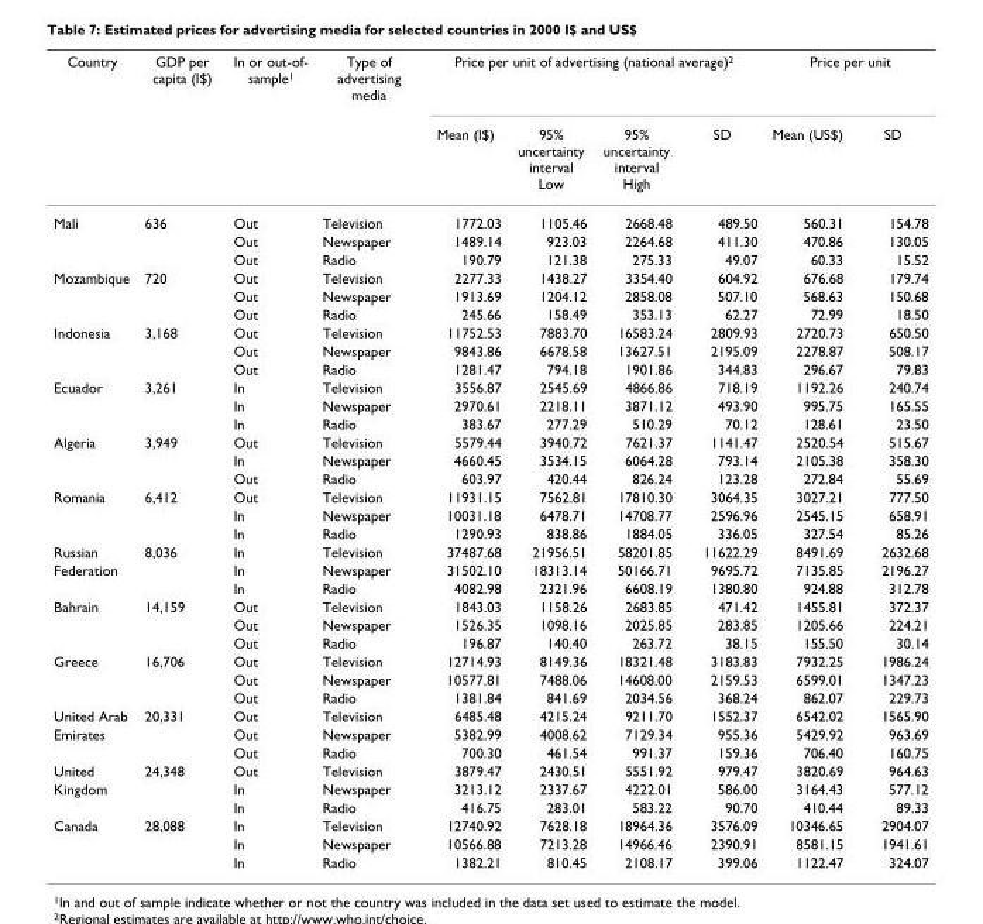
<table><thead><tr><td rowspan="2">Country</td><td rowspan="2">GDP per capita (I$)</td><td rowspan="2">In or out-of- sample<sup>1</sup></td><td rowspan="2">Type of advertising media</td><td colspan="4">Price per unit of advertising (national average)<sup>2</sup></td><td colspan="2">Price per unit</td></tr><tr><td>Mean (I$)</td><td>95% uncertainty interval Low</td><td>95% uncertainty interval High</td><td>SD</td><td>Mean (US$)</td><td>SD</td></tr></thead><tbody><tr><td rowspan="3">Mali</td><td>636</td><td>Out</td><td>Television</td><td>1772.03</td><td>1105.46</td><td>2668.48</td><td>489.50</td><td>560.31</td><td>154.78</td></tr><tr><td></td><td>Out</td><td>Newspaper</td><td>1489.14</td><td>923.03</td><td>2264.68</td><td>411.30</td><td>470.86</td><td>130.05</td></tr><tr><td></td><td>Out</td><td>Radio</td><td>190.79</td><td>121.38</td><td>275.33</td><td>49.07</td><td>60.33</td><td>15.52</td></tr><tr><td rowspan="3">Mozambique</td><td>720</td><td>Out</td><td>Television</td><td>2277.33</td><td>1438.27</td><td>3354.40</td><td>604.92</td><td>676.68</td><td>179.74</td></tr><tr><td></td><td>Out</td><td>Newspaper</td><td>1913.69</td><td>1204.12</td><td>2858.08</td><td>507.10</td><td>568.63</td><td>150.68</td></tr><tr><td></td><td>Out</td><td>Radio</td><td>245.66</td><td>158.49</td><td>353.13</td><td>62.27</td><td>72.99</td><td>18.50</td></tr><tr><td rowspan="3">Indonesia</td><td>3,168</td><td>Out</td><td>Television</td><td>11752.53</td><td>7883.70</td><td>16583.24</td><td>2809.93</td><td>2720.73</td><td>650.50</td></tr><tr><td></td><td>Out</td><td>Newspaper</td><td>9843.86</td><td>6678.58</td><td>13627.51</td><td>2195.09</td><td>2278.87</td><td>508.17</td></tr><tr><td></td><td>Out</td><td>Radio</td><td>1281.47</td><td>794.18</td><td>1901.86</td><td>344.83</td><td>296.67</td><td>79.83</td></tr><tr><td rowspan="3">Ecuador</td><td>3,261</td><td>In</td><td>Television</td><td>3556.87</td><td>2545.69</td><td>4866.86</td><td>718.19</td><td>1192.26</td><td>240.74</td></tr><tr><td></td><td>In</td><td>Newspaper</td><td>2970.61</td><td>2218.11</td><td>3871.12</td><td>493.90</td><td>995.75</td><td>165.55</td></tr><tr><td></td><td>In</td><td>Radio</td><td>383.67</td><td>277.29</td><td>510.29</td><td>70.12</td><td>128.61</td><td>23.50</td></tr><tr><td rowspan="3">Algeria</td><td>3,949</td><td>Out</td><td>Television</td><td>5579.44</td><td>3940.72</td><td>7621.37</td><td>1141.47</td><td>2520.54</td><td>515.67</td></tr><tr><td></td><td>In</td><td>Newspaper</td><td>4660.45</td><td>3534.15</td><td>6064.28</td><td>793.14</td><td>2105.38</td><td>358.30</td></tr><tr><td></td><td>Out</td><td>Radio</td><td>603.97</td><td>420.44</td><td>826.24</td><td>123.28</td><td>272.84</td><td>55.69</td></tr><tr><td rowspan="3">Romania</td><td>6,412</td><td>Out</td><td>Television</td><td>11931.15</td><td>7562.81</td><td>17810.30</td><td>3064.35</td><td>3027.21</td><td>777.50</td></tr><tr><td></td><td>In</td><td>Newspaper</td><td>10031.18</td><td>6478.71</td><td>14708.77</td><td>2596.96</td><td>2545.15</td><td>658.91</td></tr><tr><td></td><td>In</td><td>Radio</td><td>1290.93</td><td>838.86</td><td>1884.05</td><td>336.05</td><td>327.54</td><td>85.26</td></tr><tr><td>Russian</td><td>8,036</td><td>In</td><td>Television</td><td>37487.68</td><td>21956.51</td><td>58201.85</td><td>11622.29</td><td>8491.69</td><td>2632.68</td></tr><tr><td rowspan="2">Federation</td><td></td><td>In</td><td>Newspaper</td><td>31502.10</td><td>18313.14</td><td>50166.71</td><td>9695.72</td><td>7135.85</td><td>2196.27</td></tr><tr><td></td><td>In</td><td>Radio</td><td>4082.98</td><td>2321.96</td><td>6608.19</td><td>1380.80</td><td>924.88</td><td>312.78</td></tr><tr><td rowspan="3">Bahrain</td><td>14,159</td><td>Out</td><td>Television</td><td>1843.03</td><td>1158.26</td><td>2683.85</td><td>471.42</td><td>1455.81</td><td>372.37</td></tr><tr><td></td><td>Out</td><td>Newspaper</td><td>1526.35</td><td>1098.16</td><td>2025.85</td><td>283.85</td><td>1205.66</td><td>224.21</td></tr><tr><td></td><td>Out</td><td>Radio</td><td>196.87</td><td>140.40</td><td>263.72</td><td>38.15</td><td>155.50</td><td>30.14</td></tr><tr><td rowspan="3">Greece</td><td>16,706</td><td>Out</td><td>Television</td><td>12714.93</td><td>8149.36</td><td>18321.48</td><td>3183.83</td><td>7932.25</td><td>1986.24</td></tr><tr><td></td><td>Out</td><td>Newspaper</td><td>10577.81</td><td>7488.06</td><td>14608.00</td><td>2159.53</td><td>6599.01</td><td>1347.23</td></tr><tr><td></td><td>Out</td><td>Radio</td><td>1381.84</td><td>841.69</td><td>2034.56</td><td>368.24</td><td>862.07</td><td>229.73</td></tr><tr><td>United Arab</td><td>20,331</td><td>Out</td><td>Television</td><td>6485.48</td><td>4215.24</td><td>9211.70</td><td>1552.37</td><td>6542.02</td><td>1565.90</td></tr><tr><td rowspan="2">Emirates</td><td></td><td>Out</td><td>Newspaper</td><td>5382.99</td><td>4008.62</td><td>7129.34</td><td>955.36</td><td>5429.92</td><td>963.69</td></tr><tr><td></td><td>Out</td><td>Radio</td><td>700.30</td><td>461.54</td><td>991.37</td><td>159.36</td><td>706.40</td><td>160.75</td></tr><tr><td>United</td><td>24,348</td><td>Out</td><td>Television</td><td>3879.47</td><td>2430.51</td><td>5551.92</td><td>979.47</td><td>3820.69</td><td>964.63</td></tr><tr><td rowspan="2">Kingdom</td><td></td><td>In</td><td>Newspaper</td><td>3213.12</td><td>2337.67</td><td>4222.01</td><td>586.00</td><td>3164.43</td><td>577.12</td></tr><tr><td></td><td>In</td><td>Radio</td><td>416.75</td><td>283.01</td><td>583.22</td><td>90.70</td><td>410.44</td><td>89.33</td></tr><tr><td rowspan="3">Canada</td><td>28,088</td><td>In</td><td>Television</td><td>12740.92</td><td>7628.18</td><td>18964.36</td><td>3576.09</td><td>10346.65</td><td>2904.07</td></tr><tr><td></td><td>In</td><td>Newspaper</td><td>10566.88</td><td>7213.28</td><td>14966.46</td><td>2390.91</td><td>8581.15</td><td>1941.61</td></tr><tr><td></td><td>In</td><td>Radio</td><td>1382.21</td><td>810.45</td><td>2108.17</td><td>399.06</td><td>1122.47</td><td>324.07</td></tr></tbody></table>